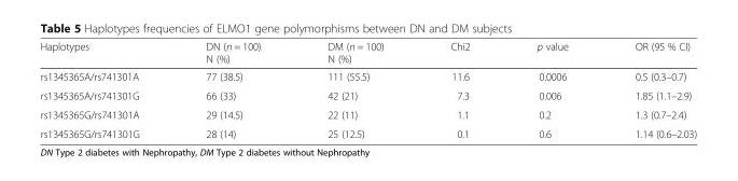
<table><thead><tr><td>Haplotypes</td><td>DN (n = 100) N (%)</td><td>DM (n = 100) N (%)</td><td>Chi2</td><td>p value</td><td>OR (95 % CI)</td></tr></thead><tbody><tr><td>rs1345365A/rs741301A</td><td>77 (38.5)</td><td>111 (55.5)</td><td>11.6</td><td>0.0006</td><td>0.5 (0.3–0.7)</td></tr><tr><td>rs1345365A/rs741301G</td><td>66 (33)</td><td>42 (21)</td><td>7.3</td><td>0.006</td><td>1.85 (1.1–2.9)</td></tr><tr><td>rs1345365G/rs741301A</td><td>29 (14.5)</td><td>22 (11)</td><td>1.1</td><td>0.2</td><td>1.3 (0.7–2.4)</td></tr><tr><td>rs1345365G/rs741301G</td><td>28 (14)</td><td>25 (12.5)</td><td>0.1</td><td>0.6</td><td>1.14 (0.6–2.03)</td></tr></tbody></table>